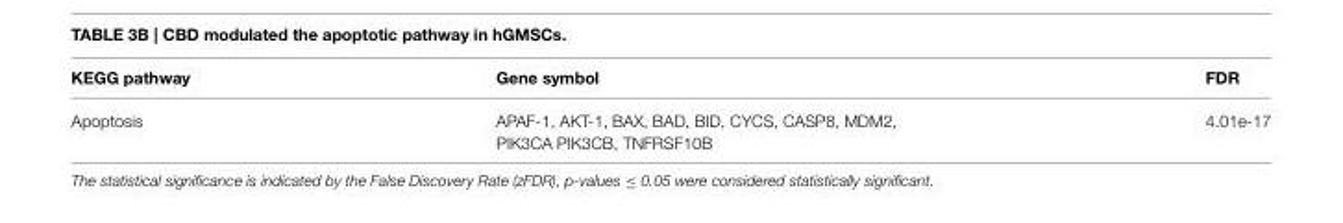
<table><thead><tr><td>KEGG pathway</td><td>Gene symbol</td><td>FDR</td></tr></thead><tbody><tr><td>Apoptosis</td><td>APAF-1, AKT-1, BAX, BAD, BID, CYCS, CASP8, MDM2, PIK3CA PIK3CB, TNFRSF10B</td><td>4.01e-17</td></tr></tbody></table>